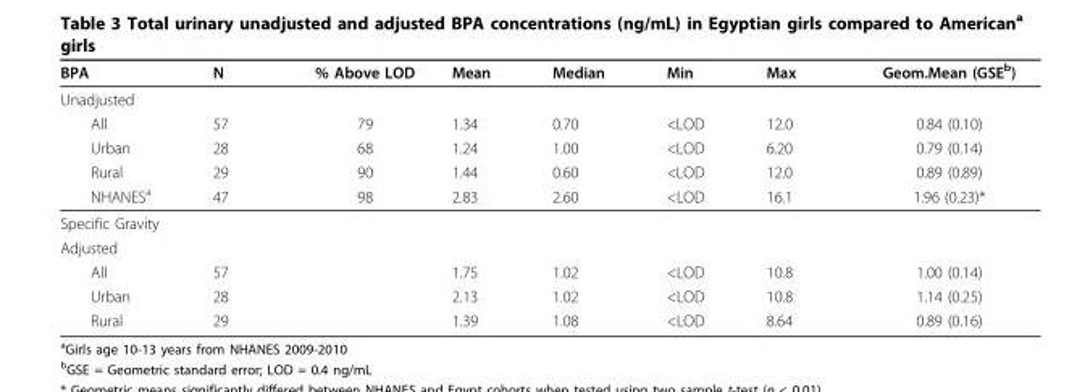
<table><thead><tr><td>BPA</td><td>N</td><td>% Above LOD</td><td>Mean</td><td>Median</td><td>Min</td><td>Max</td><td>Geom.Mean (GSE<sup>b</sup>)</td></tr></thead><tbody><tr><td colspan="8">Unadjusted</td></tr><tr><td>All</td><td>57</td><td>79</td><td>1.34</td><td>0.70</td><td>&lt;LOD</td><td>12.0</td><td>0.84 (0.10)</td></tr><tr><td>Urban</td><td>28</td><td>68</td><td>1.24</td><td>1.00</td><td>&lt;LOD</td><td>6.20</td><td>0.79 (0.14)</td></tr><tr><td>Rural</td><td>29</td><td>90</td><td>1.44</td><td>0.60</td><td>&lt;LOD</td><td>12.0</td><td>0.89 (0.89)</td></tr><tr><td>NHANES<sup>a</sup></td><td>47</td><td>98</td><td>2.83</td><td>2.60</td><td>&lt;LOD</td><td>16.1</td><td>1.96 (0.23)*</td></tr><tr><td colspan="8">Specific Gravity</td></tr><tr><td colspan="8">Adjusted</td></tr><tr><td>All</td><td>57</td><td></td><td>1.75</td><td>1.02</td><td>&lt;LOD</td><td>10.8</td><td>1.00 (0.14)</td></tr><tr><td>Urban</td><td>28</td><td></td><td>2.13</td><td>1.02</td><td>&lt;LOD</td><td>10.8</td><td>1.14 (0.25)</td></tr><tr><td>Rural</td><td>29</td><td></td><td>1.39</td><td>1.08</td><td>&lt;LOD</td><td>8.64</td><td>0.89 (0.16)</td></tr></tbody></table>